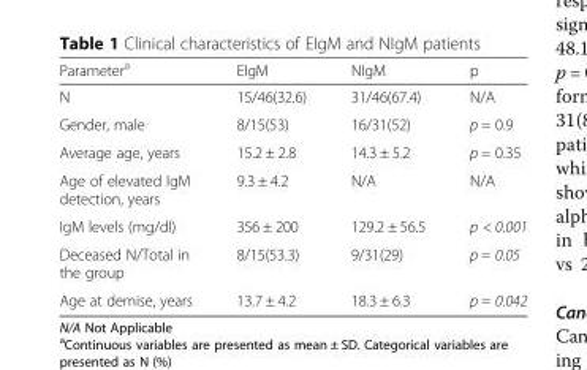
<table><thead><tr><td>Parameter<sup>a</sup></td><td>EIgM</td><td>NIgM</td><td>p</td></tr></thead><tbody><tr><td>N</td><td>15/46(32.6)</td><td>31/46(67.4)</td><td>N/A</td></tr><tr><td>Gender, male</td><td>8/15(53)</td><td>16/31(52)</td><td>p = 0.9</td></tr><tr><td>Average age, years</td><td>15.2 ± 2.8</td><td>14.3 ± 5.2</td><td>p = 0.35</td></tr><tr><td>Age of elevated IgM detection, years</td><td>9.3 ± 4.2</td><td>N/A</td><td>N/A</td></tr><tr><td>IgM levels (mg/dl)</td><td>356 ± 200</td><td>129.2 ± 56.5</td><td>p &lt; 0.001</td></tr><tr><td>Deceased N/Total in the group</td><td>8/15(53.3)</td><td>9/31(29)</td><td>p = 0.05</td></tr><tr><td>Age at demise, years</td><td>13.7 ± 4.2</td><td>18.3 ± 6.3</td><td>p = 0.042</td></tr></tbody></table>